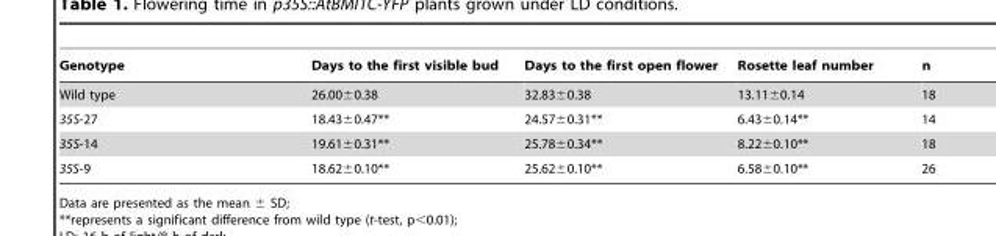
<table><thead><tr><td>Genotype</td><td>Days to the first visible bud</td><td>Days to the first open flower</td><td>Rosette leaf number</td><td>n</td></tr></thead><tbody><tr><td>Wild type</td><td>26.00±0.38</td><td>32.83±0.38</td><td>13.11±0.14</td><td>18</td></tr><tr><td>35S-27</td><td>18.43±0.47**</td><td>24.57±0.31**</td><td>6.43±0.14**</td><td>14</td></tr><tr><td>35S-14</td><td>19.61±0.31**</td><td>25.78±0.34**</td><td>8.22±0.10**</td><td>18</td></tr><tr><td>35S-9</td><td>18.62±0.10**</td><td>25.62±0.10**</td><td>6.58±0.10**</td><td>26</td></tr></tbody></table>